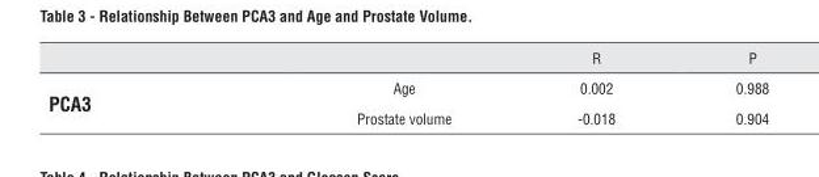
<table><thead><tr><td></td><td></td><td>R</td><td>P</td></tr></thead><tbody><tr><td rowspan="2">pCA3</td><td>Age</td><td>0.002</td><td>0.988</td></tr><tr><td>Prostate volume</td><td>-0.018</td><td>0.904</td></tr></tbody></table>